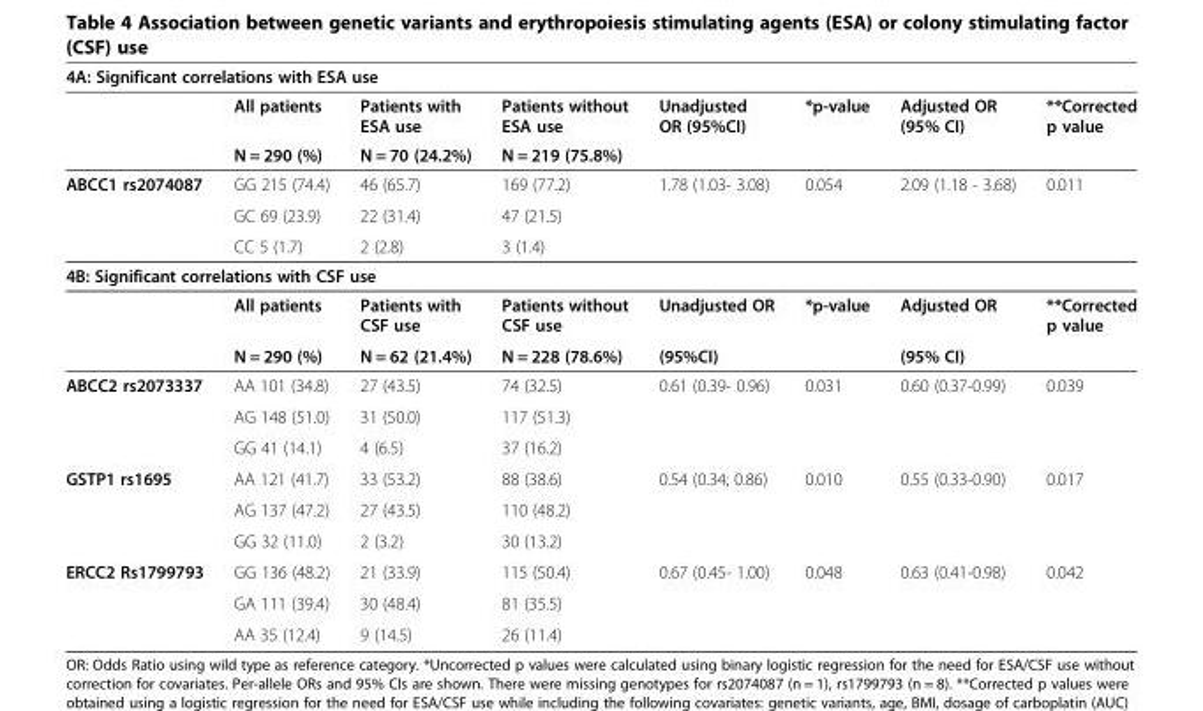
<table><thead><tr><td colspan="8">4A: Significant correlations with ESA use</td></tr><tr><td rowspan="2"></td><td rowspan="2">All patients N = 290 (%)</td><td rowspan="2">Patients with ESA use N = 70 (24.2%)</td><td rowspan="2">Patients without ESA use N = 219 (75.8%)</td><td rowspan="2">Unadjusted OR (95%CI)</td><td rowspan="2">*p-value</td><td rowspan="2">Adjusted OR (95% CI)</td><td rowspan="2">**Corrected p value</td></tr><tr></tr></thead><tbody><tr><td rowspan="3">ABCC1 rs2074087</td><td>GG 215 (74.4)</td><td>46 (65.7)</td><td>169 (77.2)</td><td rowspan="3">1.78 (1.03- 3.08)</td><td rowspan="3">0.054</td><td rowspan="3">2.09 (1.18 - 3.68)</td><td>0.011</td></tr><tr><td>GC 69 (23.9)</td><td>22 (31.4)</td><td>47 (21.5)</td><td></td></tr><tr><td>CC 5 (1.7)</td><td>2 (2.8)</td><td>3 (1.4)</td><td></td></tr><tr><td colspan="8">4B: Significant correlations with CSF use</td></tr><tr><td rowspan="2"></td><td>All patients</td><td>Patients with CSF use</td><td>Patients without CSF use</td><td>Unadjusted OR</td><td rowspan="2">*p-value</td><td>Adjusted OR</td><td rowspan="2">**Corrected p value</td></tr><tr><td>N = 290 (%)</td><td>N = 62 (21.4%)</td><td>N = 228 (78.6%)</td><td>(95%CI)</td><td>(95% CI)</td></tr><tr><td rowspan="3">ABCC2 rs2073337</td><td>AA 101 (34.8)</td><td>27 (43.5)</td><td>74 (32.5)</td><td rowspan="3">0.61 (0.39- 0.96)</td><td rowspan="3">0.031</td><td rowspan="3">0.60 (0.37-0.99)</td><td rowspan="3">0.039</td></tr><tr><td>AG 148 (51.0)</td><td>31 (50.0)</td><td>117 (51.3)</td></tr><tr><td>GG 41 (14.1)</td><td>4 (6.5)</td><td>37 (16.2)</td></tr><tr><td rowspan="3">GSTP1 rs1695</td><td>AA 121 (41.7)</td><td>33 (53.2)</td><td>88 (38.6)</td><td rowspan="3">0.54 (0.34; 0.86)</td><td rowspan="3">0.010</td><td rowspan="3">0.55 (0.33-0.90)</td><td rowspan="3">0.017</td></tr><tr><td>AG 137 (47.2)</td><td>27 (43.5)</td><td>110 (48.2)</td></tr><tr><td>GG 32 (11.0)</td><td>2 (3.2)</td><td>30 (13.2)</td></tr><tr><td rowspan="3">ERCC2 Rs1799793</td><td>GG 136 (48.2)</td><td>21 (33.9)</td><td>115 (50.4)</td><td rowspan="3">0.67 (0.45- 1.00)</td><td rowspan="3">0.048</td><td rowspan="3">0.63 (0.41-0.98)</td><td rowspan="3">0.042</td></tr><tr><td>GA 111 (39.4)</td><td>30 (48.4)</td><td>81 (35.5)</td></tr><tr><td>AA 35 (12.4)</td><td>9 (14.5)</td><td>26 (11.4)</td></tr></tbody></table>